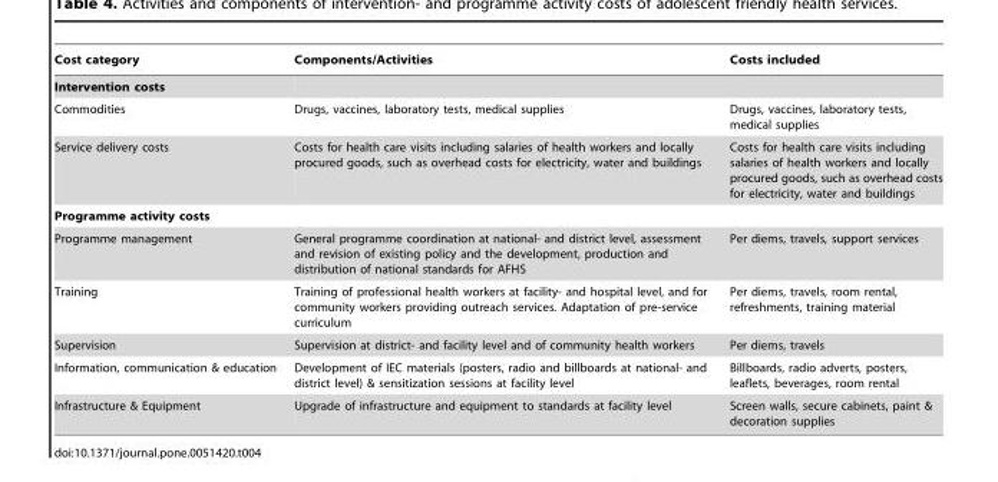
<table><thead><tr><td>Cost category</td><td>Components/Activities</td><td>Costs included</td></tr></thead><tbody><tr><td colspan="3">Intervention costs</td></tr><tr><td>Commodities</td><td>Drugs, vaccines, laboratory tests, medical supplies</td><td>Drugs, vaccines, laboratory tests, medical supplies</td></tr><tr><td>Service delivery costs</td><td>Costs for health care visits including salaries of health workers and locally procured goods, such as overhead costs for electricity, water and buildings</td><td>Costs for health care visits including salaries of health workers and locally procured goods, such as overhead costs for electricity, water and buildings</td></tr><tr><td colspan="3">Programme activity costs</td></tr><tr><td>Programme management</td><td>General programme coordination at national- and district level, assessment and revision of existing policy and the development, production and distribution of national standards for AFHS</td><td>Per diems, travels, support services</td></tr><tr><td>Training</td><td>Training of professional health workers at facility- and hospital level, and for community workers providing outreach services. Adaptation of pre-service curriculum</td><td>Per diems, travels, room rental, refreshments, training material</td></tr><tr><td>Supervision</td><td>Supervision at district- and facility level and of community health workers</td><td>Per diems, travels</td></tr><tr><td>Information, communication &amp; education</td><td>Development of IEC materials (posters, radio and billboards at national- and district level) &amp; sensitization sessions at facility level</td><td>Billboards, radio adverts, posters, leaflets, beverages, room rental</td></tr><tr><td>Infrastructure &amp; Equipment</td><td>Upgrade of infrastructure and equipment to standards at facility level</td><td>Screen walls, secure cabinets, paint &amp; decoration supplies</td></tr></tbody></table>